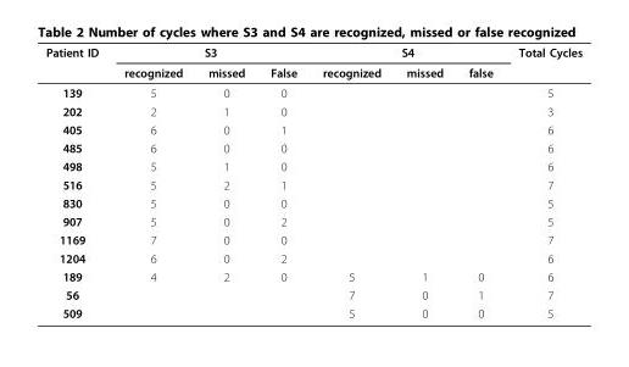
<table><thead><tr><td rowspan="2">Patient ID</td><td colspan="3">S3</td><td colspan="3">S4</td><td rowspan="2">Total Cycles</td></tr><tr><td>recognized</td><td>missed</td><td>False</td><td>recognized</td><td>missed</td><td>false</td></tr></thead><tbody><tr><td>139</td><td>5</td><td>0</td><td>0</td><td></td><td></td><td></td><td>5</td></tr><tr><td>202</td><td>2</td><td>1</td><td>0</td><td></td><td></td><td></td><td>3</td></tr><tr><td>405</td><td>6</td><td>0</td><td>1</td><td></td><td></td><td></td><td>6</td></tr><tr><td>485</td><td>6</td><td>0</td><td>0</td><td></td><td></td><td></td><td>6</td></tr><tr><td>498</td><td>5</td><td>1</td><td>0</td><td></td><td></td><td></td><td>6</td></tr><tr><td>516</td><td>5</td><td>2</td><td>1</td><td></td><td></td><td></td><td>7</td></tr><tr><td>830</td><td>5</td><td>0</td><td>0</td><td></td><td></td><td></td><td>5</td></tr><tr><td>907</td><td>5</td><td>0</td><td>2</td><td></td><td></td><td></td><td>5</td></tr><tr><td>1169</td><td>7</td><td>0</td><td>0</td><td></td><td></td><td></td><td>7</td></tr><tr><td>1204</td><td>6</td><td>0</td><td>2</td><td></td><td></td><td></td><td>6</td></tr><tr><td>189</td><td>4</td><td>2</td><td>0</td><td>5</td><td>1</td><td>0</td><td>6</td></tr><tr><td>56</td><td></td><td></td><td></td><td>7</td><td>0</td><td>1</td><td>7</td></tr><tr><td>509</td><td></td><td></td><td></td><td>5</td><td>0</td><td>0</td><td>5</td></tr></tbody></table>